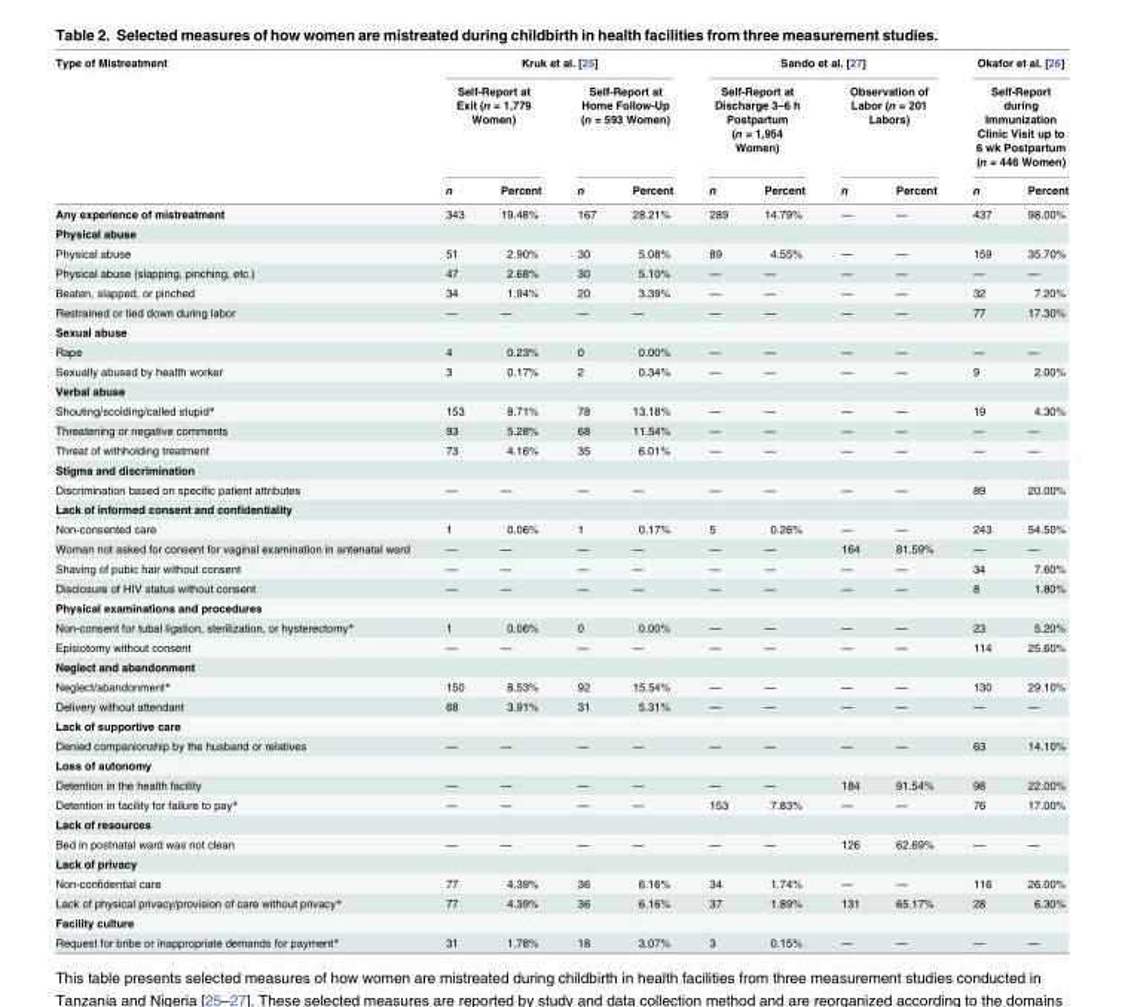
<table><thead><tr><td rowspan="3">Type of Mistreatment</td><td colspan="4">Kruk et al. [25]</td><td colspan="4">Sando et al. [27]</td><td rowspan="2" colspan="2">Okafor et al. [26] Self-Report during Immunization Clinic Visit up to 6 wk Postpartum (n = 446 Women)</td></tr><tr><td colspan="2">Self-Report at Exit (n = 1,779 Women)</td><td colspan="2">Self-Report at Home Follow-Up (n = 593 Women)</td><td colspan="2">Self-Report at Discharge 3–6 h Postpartum (n = 1,954 Women)</td><td colspan="2">Observation of Labor (n = 201 Labors)</td></tr><tr><td>n</td><td>Percent</td><td>n</td><td>Percent</td><td>n</td><td>Percent</td><td>n</td><td>Percent</td><td>n</td><td>Percent</td></tr></thead><tbody><tr><td>Any experience of mistreatment</td><td>343</td><td>19.48%</td><td>167</td><td>28.21%</td><td>289</td><td>14.79%</td><td>—</td><td>—</td><td>437</td><td>98.00%</td></tr><tr><td colspan="11">Physical abuse</td></tr><tr><td>Physical abuse</td><td>51</td><td>2.90%</td><td>30</td><td>5.08%</td><td>89</td><td>4.55%</td><td>—</td><td>—</td><td>159</td><td>35.70%</td></tr><tr><td>Physical abuse (slapping, pinching, etc.)</td><td>47</td><td>2.68%</td><td>30</td><td>5.10%</td><td>—</td><td>—</td><td>—</td><td>—</td><td>—</td><td>—</td></tr><tr><td>Beaten, slapped, or pinched</td><td>34</td><td>1.94%</td><td>20</td><td>3.39%</td><td>—</td><td>—</td><td>—</td><td>—</td><td>32</td><td>7.20%</td></tr><tr><td>Restrained or tied down during labor</td><td>—</td><td>—</td><td>—</td><td>—</td><td>—</td><td>—</td><td>—</td><td>—</td><td>77</td><td>17.30%</td></tr><tr><td colspan="11">Sexual abuse</td></tr><tr><td>Rape</td><td>4</td><td>0.23%</td><td>0</td><td>0.00%</td><td>—</td><td>—</td><td>—</td><td>—</td><td>—</td><td>—</td></tr><tr><td>Sexually abused by health worker</td><td>3</td><td>0.17%</td><td>2</td><td>0.34%</td><td>—</td><td>—</td><td>—</td><td>—</td><td>9</td><td>2.00%</td></tr><tr><td colspan="11">Verbal abuse</td></tr><tr><td>Shouting/scolding/called stupid*</td><td>153</td><td>8.71%</td><td>78</td><td>13.18%</td><td>—</td><td>—</td><td>—</td><td>—</td><td>19</td><td>4.30%</td></tr><tr><td>Threatening or negative comments</td><td>93</td><td>5.28%</td><td>68</td><td>11.54%</td><td>—</td><td>—</td><td>—</td><td>—</td><td>—</td><td>—</td></tr><tr><td>Threat of withholding treatment</td><td>73</td><td>4.16%</td><td>35</td><td>6.01%</td><td>—</td><td>—</td><td>—</td><td>—</td><td>—</td><td>—</td></tr><tr><td colspan="11">Stigma and discrimination</td></tr><tr><td>Discrimination based on specific patient attributes</td><td>—</td><td>—</td><td>—</td><td>—</td><td>—</td><td>—</td><td>—</td><td>—</td><td>89</td><td>20.00%</td></tr><tr><td colspan="11">Lack of informed consent and confidentiality</td></tr><tr><td>Non-consented care</td><td>1</td><td>0.06%</td><td>1</td><td>0.17%</td><td>5</td><td>0.26%</td><td>—</td><td>—</td><td>243</td><td>54.50%</td></tr><tr><td>Woman not asked for consent for vaginal examination in antenatal ward</td><td>—</td><td>—</td><td>—</td><td>—</td><td>—</td><td>—</td><td>164</td><td>81.59%</td><td>—</td><td>—</td></tr><tr><td>Shaving of pubic hair without consent</td><td>—</td><td>—</td><td>—</td><td>—</td><td>—</td><td>—</td><td>—</td><td>—</td><td>34</td><td>7.60%</td></tr><tr><td>Disclosure of HIV status without consent</td><td>—</td><td>—</td><td>—</td><td>—</td><td>—</td><td>—</td><td>—</td><td>—</td><td>8</td><td>1.80%</td></tr><tr><td colspan="11">Physical examinations and procedures</td></tr><tr><td>Non-consent for tubal ligation, sterilization, or hysterectomy*</td><td>1</td><td>0.06%</td><td>0</td><td>0.00%</td><td>—</td><td>—</td><td>—</td><td>—</td><td>23</td><td>5.20%</td></tr><tr><td>Episiotomy without consent</td><td>—</td><td>—</td><td>—</td><td>—</td><td>—</td><td>—</td><td>—</td><td>—</td><td>114</td><td>25.60%</td></tr><tr><td colspan="11">Neglect and abandonment</td></tr><tr><td>Neglect/abandonment*</td><td>150</td><td>8.53%</td><td>92</td><td>15.54%</td><td>—</td><td>—</td><td>—</td><td>—</td><td>130</td><td>29.10%</td></tr><tr><td>Delivery without attendant</td><td>68</td><td>3.91%</td><td>31</td><td>5.31%</td><td>—</td><td>—</td><td>—</td><td>—</td><td>—</td><td>—</td></tr><tr><td colspan="11">Lack of supportive care</td></tr><tr><td>Denied companionship by the husband or relatives</td><td>—</td><td>—</td><td>—</td><td>—</td><td>—</td><td>—</td><td>—</td><td>—</td><td>63</td><td>14.10%</td></tr><tr><td colspan="11">Loss of autonomy</td></tr><tr><td>Detention in the health facility</td><td>—</td><td>—</td><td>—</td><td>—</td><td>—</td><td>—</td><td>184</td><td>91.54%</td><td>98</td><td>22.00%</td></tr><tr><td>Detention in facility for failure to pay*</td><td>—</td><td>—</td><td>—</td><td>—</td><td>153</td><td>7.83%</td><td>—</td><td>—</td><td>76</td><td>17.00%</td></tr><tr><td colspan="11">Lack of resources</td></tr><tr><td>Bed in postnatal ward was not clean</td><td>—</td><td>—</td><td>—</td><td>—</td><td>—</td><td>—</td><td>126</td><td>62.69%</td><td>—</td><td>—</td></tr><tr><td colspan="11">Lack of privacy</td></tr><tr><td>Non-confidential care</td><td>77</td><td>4.39%</td><td>36</td><td>6.16%</td><td>34</td><td>1.74%</td><td>—</td><td>—</td><td>116</td><td>26.00%</td></tr><tr><td>Lack of physical privacy/provision of care without privacy*</td><td>77</td><td>4.39%</td><td>36</td><td>6.16%</td><td>37</td><td>1.89%</td><td>131</td><td>65.17%</td><td>28</td><td>6.30%</td></tr><tr><td colspan="11">Facility culture</td></tr><tr><td>Request for bribe or inappropriate demands for payment*</td><td>31</td><td>1.78%</td><td>18</td><td>3.07%</td><td>3</td><td>0.15%</td><td>—</td><td>—</td><td>—</td><td>—</td></tr></tbody></table>